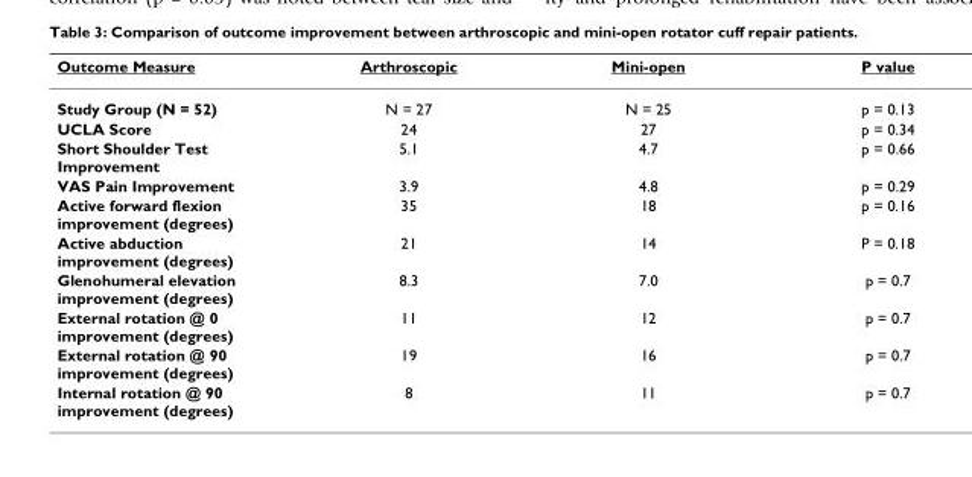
<table><thead><tr><td>Outcome Measure</td><td>Arthroscopic</td><td>Mini-open</td><td>P value</td></tr></thead><tbody><tr><td>Study Group (N = 52)</td><td>N = 27</td><td>N = 25</td><td>p = 0.13</td></tr><tr><td>UCLA Score</td><td>24</td><td>27</td><td>p = 0.34</td></tr><tr><td>Short Shoulder Test Improvement</td><td>5.1</td><td>4.7</td><td>p = 0.66</td></tr><tr><td>VAS Pain Improvement</td><td>3.9</td><td>4.8</td><td>p = 0.29</td></tr><tr><td>Active forward flexion improvement (degrees)</td><td>35</td><td>18</td><td>p = 0.16</td></tr><tr><td>Active abduction improvement (degrees)</td><td>21</td><td>14</td><td>P = 0.18</td></tr><tr><td>Glenohumeral elevation improvement (degrees)</td><td>8.3</td><td>7.0</td><td>p = 0.7</td></tr><tr><td>External rotation @ 0 improvement (degrees)</td><td>11</td><td>12</td><td>p = 0.7</td></tr><tr><td>External rotation @ 90 improvement (degrees)</td><td>19</td><td>16</td><td>p = 0.7</td></tr><tr><td>Internal rotation @ 90 improvement (degrees)</td><td>8</td><td>11</td><td>p = 0.7</td></tr></tbody></table>